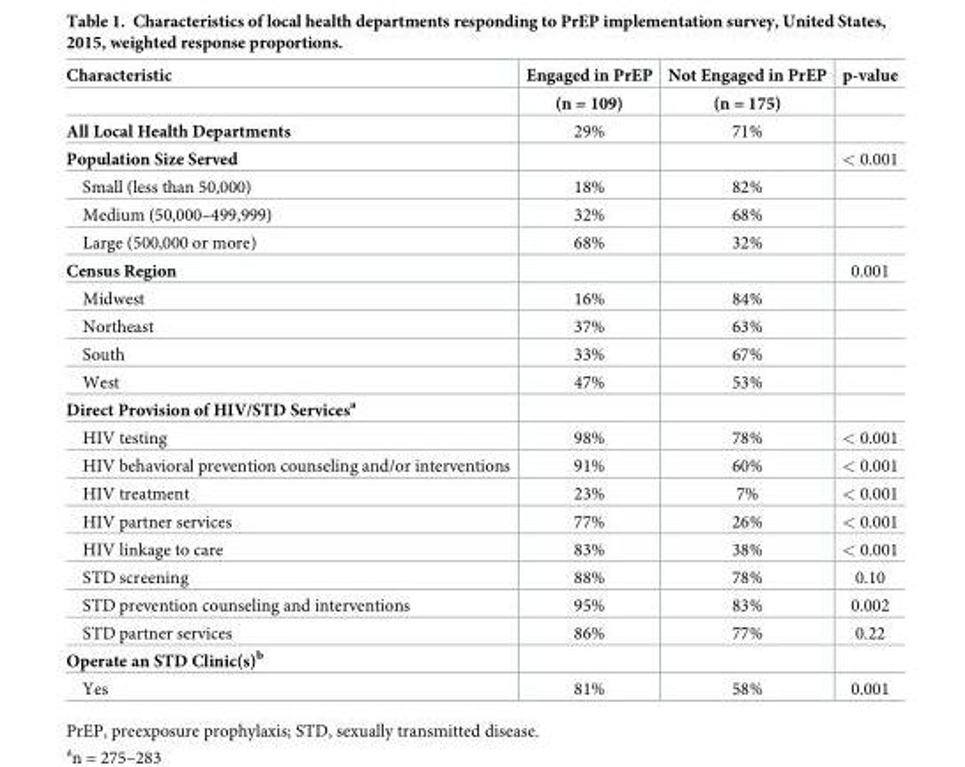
<table><thead><tr><td>Characteristic</td><td>Engaged in PrEP</td><td>Not Engaged in PrEP</td><td>p-value</td></tr></thead><tbody><tr><td></td><td>(n = 109)</td><td>(n = 175)</td><td></td></tr><tr><td>All Local Health Departments</td><td>29%</td><td>71%</td><td></td></tr><tr><td>Population Size Served</td><td></td><td></td><td>&lt; 0.001</td></tr><tr><td>Small (less than 50,000)</td><td>18%</td><td>82%</td><td></td></tr><tr><td>Medium (50,000–499,999)</td><td>32%</td><td>68%</td><td></td></tr><tr><td>Large (500,000 or more)</td><td>68%</td><td>32%</td><td></td></tr><tr><td>Census Region</td><td></td><td></td><td>0.001</td></tr><tr><td>Midwest</td><td>16%</td><td>84%</td><td></td></tr><tr><td>Northeast</td><td>37%</td><td>63%</td><td></td></tr><tr><td>South</td><td>33%</td><td>67%</td><td></td></tr><tr><td>West</td><td>47%</td><td>53%</td><td></td></tr><tr><td colspan="4">Direct Provision of HIV/STD Services<sup>a</sup></td></tr><tr><td>HIV testing</td><td>98%</td><td>78%</td><td>&lt; 0.001</td></tr><tr><td>HIV behavioral prevention counseling and/or interventions</td><td>91%</td><td>60%</td><td>&lt; 0.001</td></tr><tr><td>HIV treatment</td><td>23%</td><td>7%</td><td>&lt; 0.001</td></tr><tr><td>HIV partner services</td><td>77%</td><td>26%</td><td>&lt; 0.001</td></tr><tr><td>HIV linkage to care</td><td>83%</td><td>38%</td><td>&lt; 0.001</td></tr><tr><td>STD screening</td><td>88%</td><td>78%</td><td>0.10</td></tr><tr><td>STD prevention counseling and interventions</td><td>95%</td><td>83%</td><td>0.002</td></tr><tr><td>STD partner services</td><td>86%</td><td>77%</td><td>0.22</td></tr><tr><td colspan="4">Operate an STD Clinic(s)<sup>b</sup></td></tr><tr><td>Yes</td><td>81%</td><td>58%</td><td>0.001</td></tr></tbody></table>